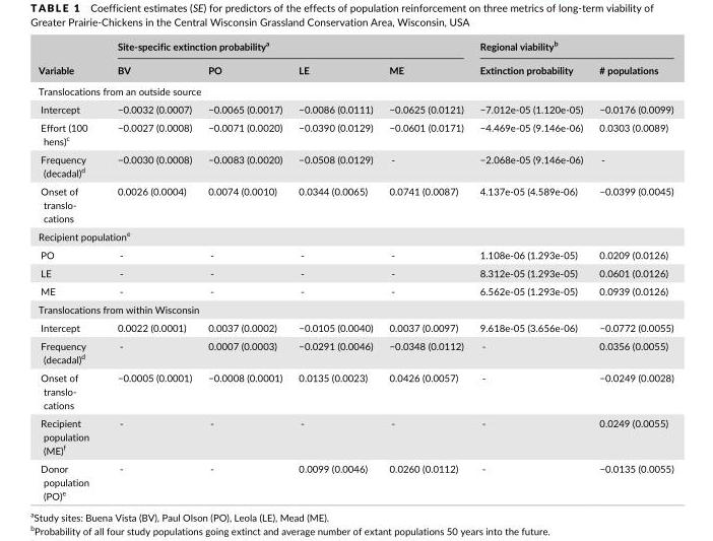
<table><thead><tr><td rowspan="2">Variable</td><td colspan="4">Site- specific extinction probability<sup>a</sup></td><td colspan="2">Regional viability<sup>b</sup></td></tr><tr><td>BV</td><td>PO</td><td>LE</td><td>ME</td><td>Extinction probability</td><td># populations</td></tr></thead><tbody><tr><td colspan="7">Translocations from an outside source</td></tr><tr><td>Intercept</td><td>−0.0032 (0.0007)</td><td>−0.0065 (0.0017)</td><td>−0.0086 (0.0111)</td><td>−0.0625 (0.0121)</td><td>−7.012e- 05 (1.120e- 05)</td><td>−0.0176 (0.0099)</td></tr><tr><td>Effort (100 hens)<sup>c</sup></td><td>−0.0027 (0.0008)</td><td>−0.0071 (0.0020)</td><td>−0.0390 (0.0129)</td><td>−0.0601 (0.0171)</td><td>−4.469e- 05 (9.146e- 06)</td><td>0.0303 (0.0089)</td></tr><tr><td>Frequency (decadal)<sup>d</sup></td><td>−0.0030 (0.0008)</td><td>−0.0083 (0.0020)</td><td>−0.0508 (0.0129)</td><td>-</td><td>−2.068e- 05 (9.146e- 06)</td><td>-</td></tr><tr><td>Onset of translo- cations</td><td>0.0026 (0.0004)</td><td>0.0074 (0.0010)</td><td>0.0344 (0.0065)</td><td>0.0741 (0.0087)</td><td>4.137e- 05 (4.589e- 06)</td><td>−0.0399 (0.0045)</td></tr><tr><td colspan="7">Recipient population<sup>e</sup></td></tr><tr><td>PO</td><td>-</td><td>-</td><td>-</td><td>-</td><td>1.108e- 06 (1.293e- 05)</td><td>0.0209 (0.0126)</td></tr><tr><td>LE</td><td>-</td><td>-</td><td>-</td><td>-</td><td>8.312e- 05 (1.293e- 05)</td><td>0.0601 (0.0126)</td></tr><tr><td>ME</td><td>-</td><td>-</td><td>-</td><td>-</td><td>6.562e- 05 (1.293e- 05)</td><td>0.0939 (0.0126)</td></tr><tr><td colspan="7">Translocations from within Wisconsin</td></tr><tr><td>Intercept</td><td>0.0022 (0.0001)</td><td>0.0037 (0.0002)</td><td>−0.0105 (0.0040)</td><td>0.0037 (0.0097)</td><td>9.618e- 05 (3.656e- 06)</td><td>−0.0772 (0.0055)</td></tr><tr><td>Frequency (decadal)<sup>d</sup></td><td>-</td><td>0.0007 (0.0003)</td><td>−0.0291 (0.0046)</td><td>−0.0348 (0.0112)</td><td>-</td><td>0.0356 (0.0055)</td></tr><tr><td>Onset of translo- cations</td><td>−0.0005 (0.0001)</td><td>−0.0008 (0.0001)</td><td>0.0135 (0.0023)</td><td>0.0426 (0.0057)</td><td>-</td><td>−0.0249 (0.0028)</td></tr><tr><td>Recipient population (ME)<sup>f</sup></td><td>-</td><td>-</td><td>-</td><td>-</td><td>-</td><td>0.0249 (0.0055)</td></tr><tr><td>Donor population (PO)<sup>e</sup></td><td>-</td><td>-</td><td>0.0099 (0.0046)</td><td>0.0260 (0.0112)</td><td>-</td><td>−0.0135 (0.0055)</td></tr></tbody></table>